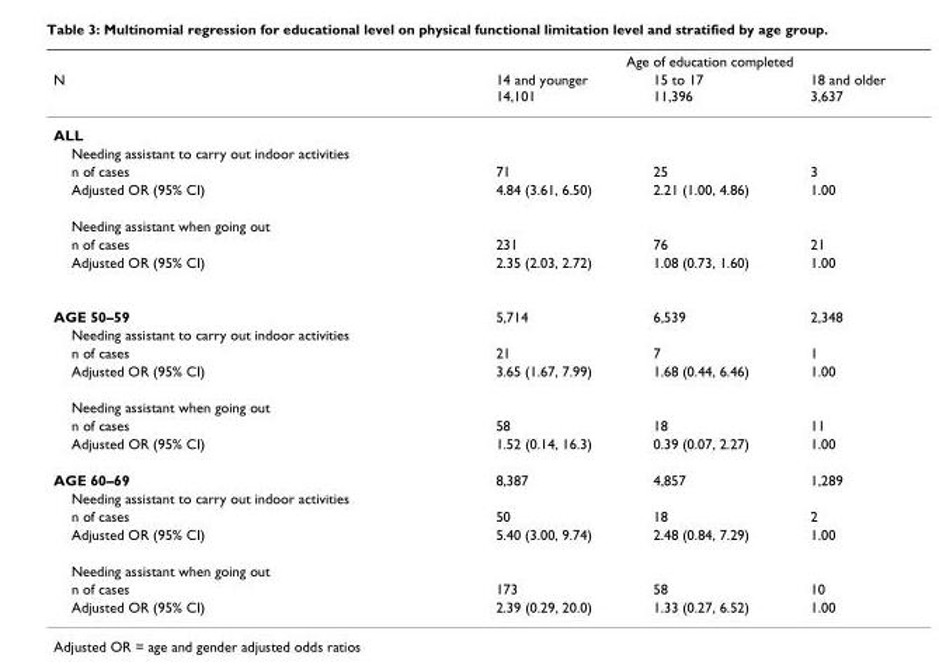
<table><thead><tr><td rowspan="2">N</td><td colspan="3">Age of education completed</td></tr><tr><td>14 and younger 14,101</td><td>15 to 17 11,396</td><td>18 and older 3,637</td></tr></thead><tbody><tr><td colspan="4">ALL</td></tr><tr><td colspan="4">Needing assistant to carry out indoor activities</td></tr><tr><td>n of cases</td><td>71</td><td>25</td><td>3</td></tr><tr><td>Adjusted OR (95% CI)</td><td>4.84 (3.61, 6.50)</td><td>2.21 (1.00, 4.86)</td><td>1.00</td></tr><tr><td colspan="4">Needing assistant when going out</td></tr><tr><td>n of cases</td><td>231</td><td>76</td><td>21</td></tr><tr><td>Adjusted OR (95% CI)</td><td>2.35 (2.03, 2.72)</td><td>1.08 (0.73, 1.60)</td><td>1.00</td></tr><tr><td>AGE 50–59</td><td>5,714</td><td>6,539</td><td>2,348</td></tr><tr><td colspan="4">Needing assistant to carry out indoor activities</td></tr><tr><td>n of cases</td><td>21</td><td>7</td><td>1</td></tr><tr><td>Adjusted OR (95% CI)</td><td>3.65 (1.67, 7.99)</td><td>1.68 (0.44, 6.46)</td><td>1.00</td></tr><tr><td colspan="4">Needing assistant when going out</td></tr><tr><td>n of cases</td><td>58</td><td>18</td><td>11</td></tr><tr><td>Adjusted OR (95% CI)</td><td>1.52 (0.14, 16.3)</td><td>0.39 (0.07, 2.27)</td><td>1.00</td></tr><tr><td>AGE 60–69</td><td>8,387</td><td>4,857</td><td>1,289</td></tr><tr><td colspan="4">Needing assistant to carry out indoor activities</td></tr><tr><td>n of cases</td><td>50</td><td>18</td><td>2</td></tr><tr><td>Adjusted OR (95% CI)</td><td>5.40 (3.00, 9.74)</td><td>2.48 (0.84, 7.29)</td><td>1.00</td></tr><tr><td colspan="4">Needing assistant when going out</td></tr><tr><td>n of cases</td><td>173</td><td>58</td><td>10</td></tr><tr><td>Adjusted OR (95% CI)</td><td>2.39 (0.29, 20.0)</td><td>1.33 (0.27, 6.52)</td><td>1.00</td></tr></tbody></table>